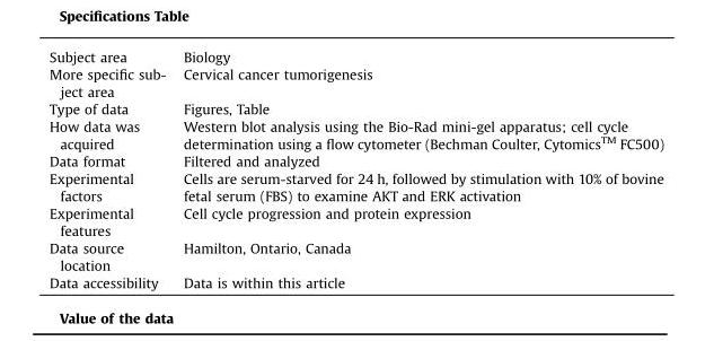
<table><tbody><tr><td>Subject area</td><td>Biology</td></tr><tr><td>More specific sub- ject area</td><td>Cervical cancer tumorigenesis</td></tr><tr><td>Type of data</td><td>Figures, Table</td></tr><tr><td>How data was acquired</td><td>Western blot analysis using the Bio-Rad mini-gel apparatus; cell cycle determination using a flow cytometer (Bechman Coulter, Cytomics<sup>TM</sup> FC500)</td></tr><tr><td>Data format</td><td>Filtered and analyzed</td></tr><tr><td>Experimental factors</td><td>Cells are serum-starved for 24 h, followed by stimulation with 10% of bovine fetal serum (FBS) to examine AKT and ERK activation</td></tr><tr><td>Experimental features</td><td>Cell cycle progression and protein expression</td></tr><tr><td>Data source location</td><td>Hamilton, Ontario, Canada</td></tr><tr><td>Data accessibility</td><td>Data is within this article</td></tr></tbody></table>